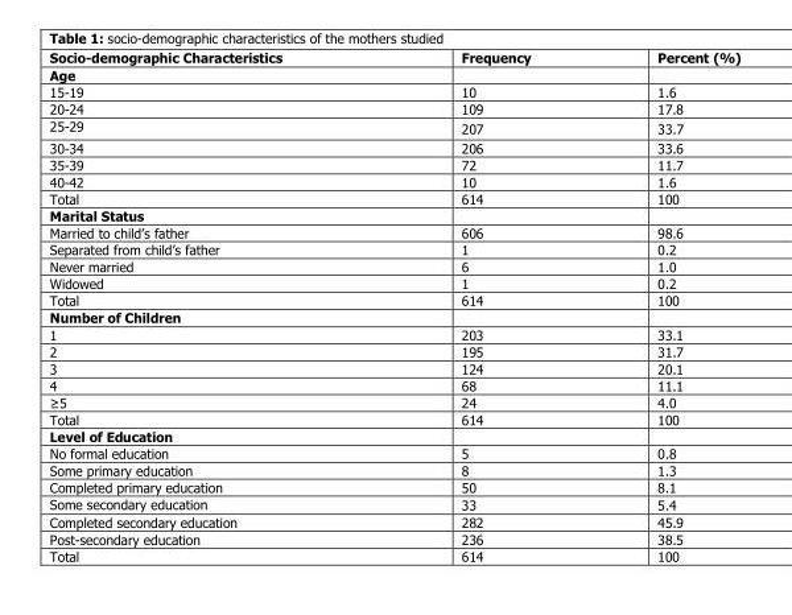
<table><thead><tr><td>Socio-demographic Characteristics</td><td>Frequency</td><td>Percent (%)</td></tr></thead><tbody><tr><td colspan="3">Age</td></tr><tr><td>15-19</td><td>10</td><td>1.6</td></tr><tr><td>20-24</td><td>109</td><td>17.8</td></tr><tr><td>25-29</td><td>207</td><td>33.7</td></tr><tr><td>30-34</td><td>206</td><td>33.6</td></tr><tr><td>35-39</td><td>72</td><td>11.7</td></tr><tr><td>40-42</td><td>10</td><td>1.6</td></tr><tr><td>Total</td><td>614</td><td>100</td></tr><tr><td colspan="3">Marital Status</td></tr><tr><td>Married to child’s father</td><td>606</td><td>98.6</td></tr><tr><td>Separated from child’s father</td><td>1</td><td>0.2</td></tr><tr><td>Never married</td><td>6</td><td>1.0</td></tr><tr><td>Widowed</td><td>1</td><td>0.2</td></tr><tr><td>Total</td><td>614</td><td>100</td></tr><tr><td colspan="3">Number of Children</td></tr><tr><td>1</td><td>203</td><td>33.1</td></tr><tr><td>2</td><td>195</td><td>31.7</td></tr><tr><td>3</td><td>124</td><td>20.1</td></tr><tr><td>4</td><td>68</td><td>11.1</td></tr><tr><td>≥5</td><td>24</td><td>4.0</td></tr><tr><td>Total</td><td>614</td><td>100</td></tr><tr><td colspan="3">Level of Education</td></tr><tr><td>No formal education</td><td>5</td><td>0.8</td></tr><tr><td>Some primary education</td><td>8</td><td>1.3</td></tr><tr><td>Completed primary education</td><td>50</td><td>8.1</td></tr><tr><td>Some secondary education</td><td>33</td><td>5.4</td></tr><tr><td>Completed secondary education</td><td>282</td><td>45.9</td></tr><tr><td>Post-secondary education</td><td>236</td><td>38.5</td></tr><tr><td>Total</td><td>614</td><td>100</td></tr></tbody></table>